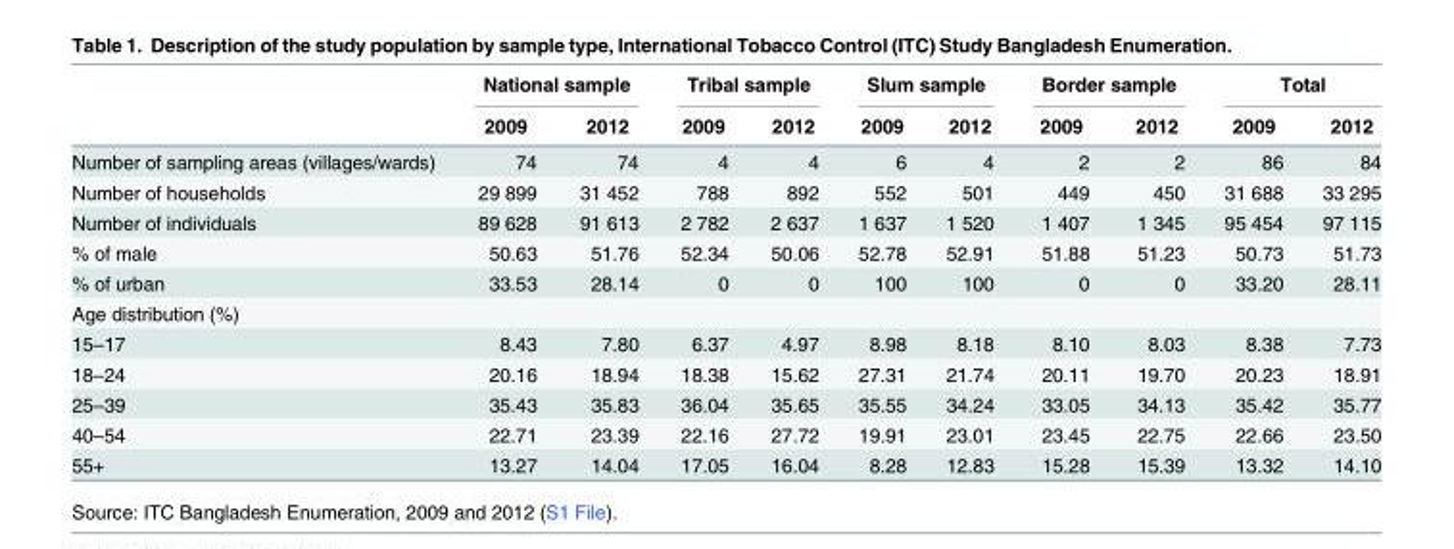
<table><thead><tr><td rowspan="2"></td><td colspan="2">National sample</td><td colspan="2">Tribal sample</td><td colspan="2">Slum sample</td><td colspan="2">Border sample</td><td colspan="2">Total</td></tr><tr><td>2009</td><td>2012</td><td>2009</td><td>2012</td><td>2009</td><td>2012</td><td>2009</td><td>2012</td><td>2009</td><td>2012</td></tr></thead><tbody><tr><td>Number of sampling areas (villages/wards)</td><td>74</td><td>74</td><td>4</td><td>4</td><td>6</td><td>4</td><td>2</td><td>2</td><td>86</td><td>84</td></tr><tr><td>Number of households</td><td>29 899</td><td>31 452</td><td>788</td><td>892</td><td>552</td><td>501</td><td>449</td><td>450</td><td>31 688</td><td>33 295</td></tr><tr><td>Number of individuals</td><td>89 628</td><td>91 613</td><td>2 782</td><td>2 637</td><td>1 637</td><td>1 520</td><td>1 407</td><td>1 345</td><td>95 454</td><td>97 115</td></tr><tr><td>% of male</td><td>50.63</td><td>51.76</td><td>52.34</td><td>50.06</td><td>52.78</td><td>52.91</td><td>51.88</td><td>51.23</td><td>50.73</td><td>51.73</td></tr><tr><td>% of urban</td><td>33.53</td><td>28.14</td><td>0</td><td>0</td><td>100</td><td>100</td><td>0</td><td>0</td><td>33.20</td><td>28.11</td></tr><tr><td colspan="11">Age distribution (%)</td></tr><tr><td>15–17</td><td>8.43</td><td>7.80</td><td>6.37</td><td>4.97</td><td>8.98</td><td>8.18</td><td>8.10</td><td>8.03</td><td>8.38</td><td>7.73</td></tr><tr><td>18–24</td><td>20.16</td><td>18.94</td><td>18.38</td><td>15.62</td><td>27.31</td><td>21.74</td><td>20.11</td><td>19.70</td><td>20.23</td><td>18.91</td></tr><tr><td>25–39</td><td>35.43</td><td>35.83</td><td>36.04</td><td>35.65</td><td>35.55</td><td>34.24</td><td>33.05</td><td>34.13</td><td>35.42</td><td>35.77</td></tr><tr><td>40–54</td><td>22.71</td><td>23.39</td><td>22.16</td><td>27.72</td><td>19.91</td><td>23.01</td><td>23.45</td><td>22.75</td><td>22.66</td><td>23.50</td></tr><tr><td>55+</td><td>13.27</td><td>14.04</td><td>17.05</td><td>16.04</td><td>8.28</td><td>12.83</td><td>15.28</td><td>15.39</td><td>13.32</td><td>14.10</td></tr></tbody></table>